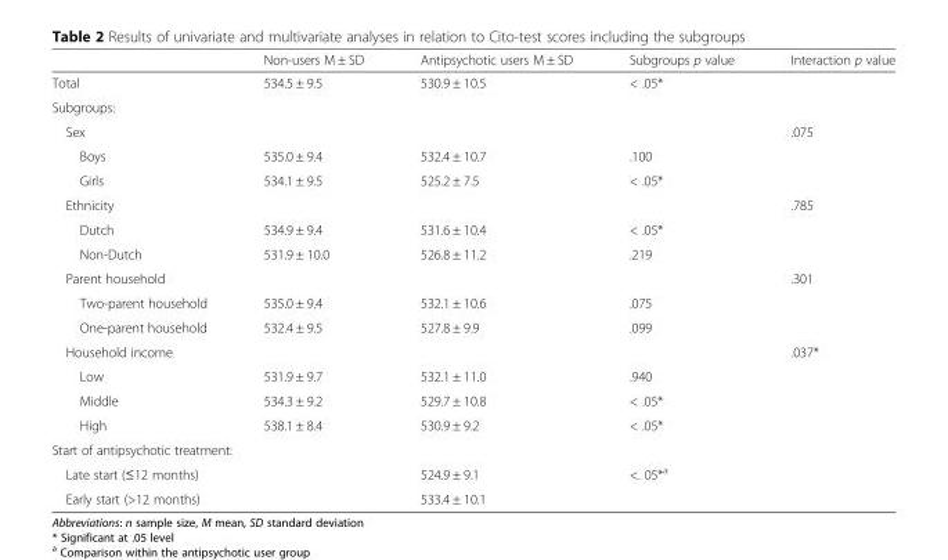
<table><thead><tr><td></td><td>Non-users M ± SD</td><td>Antipsychotic users M ± SD</td><td>Subgroups p value</td><td>Interaction p value</td></tr></thead><tbody><tr><td>Total</td><td>534.5 ± 9.5</td><td>530.9 ± 10.5</td><td>&lt; .05*</td><td></td></tr><tr><td colspan="5">Subgroups:</td></tr><tr><td>Sex</td><td></td><td></td><td></td><td>.075</td></tr><tr><td>Boys</td><td>535.0 ± 9.4</td><td>532.4 ± 10.7</td><td>.100</td><td></td></tr><tr><td>Girls</td><td>534.1 ± 9.5</td><td>525.2 ± 7.5</td><td>&lt; .05*</td><td></td></tr><tr><td>Ethnicity</td><td></td><td></td><td></td><td>.785</td></tr><tr><td>Dutch</td><td>534.9 ± 9.4</td><td>531.6 ± 10.4</td><td>&lt; .05*</td><td></td></tr><tr><td>Non-Dutch</td><td>531.9 ± 10.0</td><td>526.8 ± 11.2</td><td>.219</td><td></td></tr><tr><td>Parent household</td><td></td><td></td><td></td><td>.301</td></tr><tr><td>Two-parent household</td><td>535.0 ± 9.4</td><td>532.1 ± 10.6</td><td>.075</td><td></td></tr><tr><td>One-parent household</td><td>532.4 ± 9.5</td><td>527.8 ± 9.9</td><td>.099</td><td></td></tr><tr><td>Household income</td><td></td><td></td><td></td><td>.037*</td></tr><tr><td>Low</td><td>531.9 ± 9.7</td><td>532.1 ± 11.0</td><td>.940</td><td></td></tr><tr><td>Middle</td><td>534.3 ± 9.2</td><td>529.7 ± 10.8</td><td>&lt; .05*</td><td></td></tr><tr><td>High</td><td>538.1 ± 8.4</td><td>530.9 ± 9.2</td><td>&lt; .05*</td><td></td></tr><tr><td colspan="5">Start of antipsychotic treatment:</td></tr><tr><td>Late start (≤12 months)</td><td></td><td>524.9 ± 9.1</td><td>&lt;. 05*<sup>a</sup></td><td></td></tr><tr><td>Early start (&gt;12 months)</td><td></td><td>533.4 ± 10.1</td><td></td><td></td></tr></tbody></table>